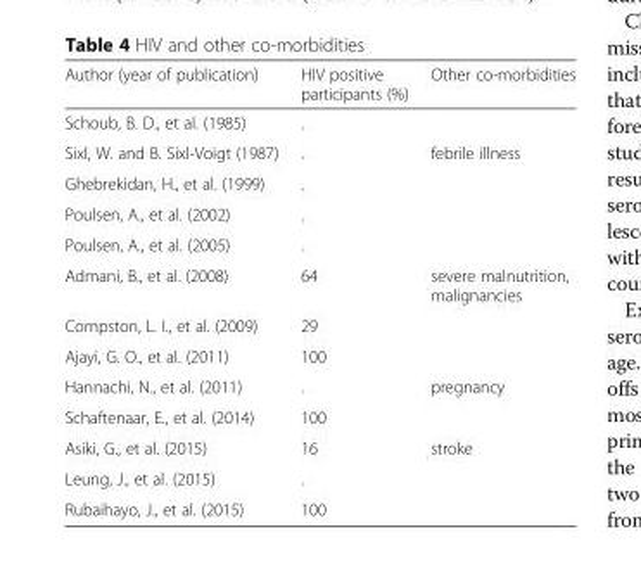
<table><thead><tr><td>Author (year of publication)</td><td>HIV positive participants (%)</td><td>Other co-morbidities</td></tr></thead><tbody><tr><td>Schoub, B. D., et al. (1985)</td><td>.</td><td></td></tr><tr><td>Sixl, W. and B. Sixl-Voigt (1987)</td><td>.</td><td>febrile illness</td></tr><tr><td>Ghebrekidan, H., et al. (1999)</td><td>.</td><td></td></tr><tr><td>Poulsen, A., et al. (2002)</td><td>.</td><td></td></tr><tr><td>Poulsen, A., et al. (2005)</td><td>.</td><td></td></tr><tr><td>Admani, B., et al. (2008)</td><td>64</td><td>severe malnutrition, malignancies</td></tr><tr><td>Compston, L. I., et al. (2009)</td><td>29</td><td></td></tr><tr><td>Ajayi, G. O., et al. (2011)</td><td>100</td><td></td></tr><tr><td>Hannachi, N., et al. (2011)</td><td>.</td><td>pregnancy</td></tr><tr><td>Schaftenaar, E., et al. (2014)</td><td>100</td><td></td></tr><tr><td>Asiki, G., et al. (2015)</td><td>16</td><td>stroke</td></tr><tr><td>Leung, J., et al. (2015)</td><td>.</td><td></td></tr><tr><td>Rubaihayo, J., et al. (2015)</td><td>100</td><td></td></tr></tbody></table>